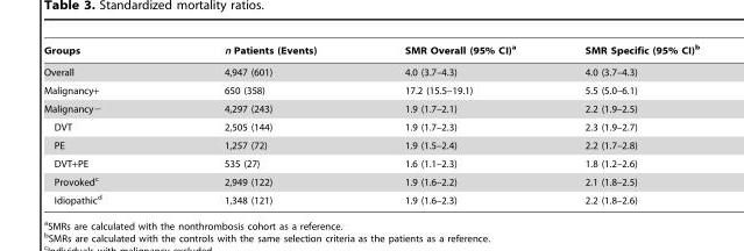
<table><thead><tr><td>Groups</td><td>n Patients (Events)</td><td>SMR Overall (95% CI)<sup>a</sup></td><td>SMR Specific (95% CI)<sup>b</sup></td></tr></thead><tbody><tr><td>Overall</td><td>4,947 (601)</td><td>4.0 (3.7–4.3)</td><td>4.0 (3.7–4.3)</td></tr><tr><td>Malignancy+</td><td>650 (358)</td><td>17.2 (15.5–19.1)</td><td>5.5 (5.0–6.1)</td></tr><tr><td>Malignancy−</td><td>4,297 (243)</td><td>1.9 (1.7–2.1)</td><td>2.2 (1.9–2.5)</td></tr><tr><td>DVT</td><td>2,505 (144)</td><td>1.9 (1.7–2.3)</td><td>2.3 (1.9–2.7)</td></tr><tr><td>PE</td><td>1,257 (72)</td><td>1.9 (1.5–2.4)</td><td>2.2 (1.7–2.8)</td></tr><tr><td>DVT+PE</td><td>535 (27)</td><td>1.6 (1.1–2.3)</td><td>1.8 (1.2–2.6)</td></tr><tr><td>Provoked<sup>c</sup></td><td>2,949 (122)</td><td>1.9 (1.6–2.2)</td><td>2.1 (1.8–2.5)</td></tr><tr><td>Idiopathic<sup>d</sup></td><td>1,348 (121)</td><td>1.9 (1.6–2.3)</td><td>2.2 (1.8–2.6)</td></tr></tbody></table>